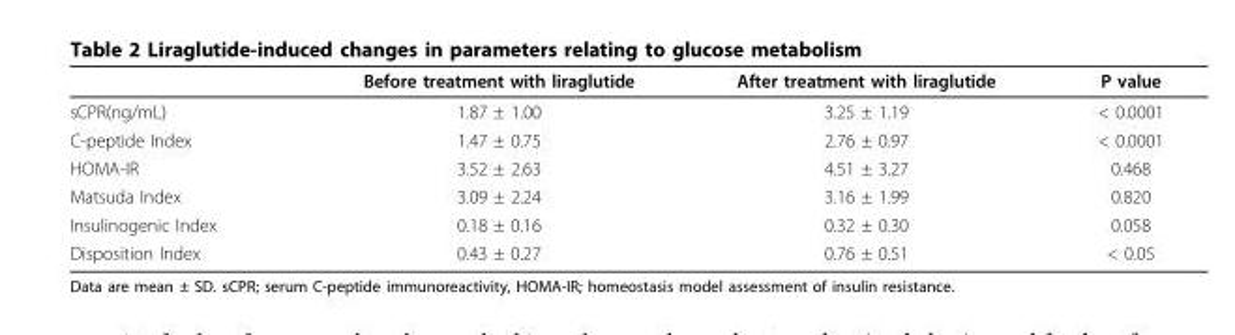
<table><thead><tr><td></td><td>Before treatment with liraglutide</td><td>After treatment with liraglutide</td><td>P value</td></tr></thead><tbody><tr><td>sCPR(ng/mL)</td><td>1.87 ± 1.00</td><td>3.25 ± 1.19</td><td>&lt; 0.0001</td></tr><tr><td>C-peptide Index</td><td>1.47 ± 0.75</td><td>2.76 ± 0.97</td><td>&lt; 0.0001</td></tr><tr><td>HOMA-IR</td><td>3.52 ± 2.63</td><td>4.51 ± 3.27</td><td>0.468</td></tr><tr><td>Matsuda Index</td><td>3.09 ± 2.24</td><td>3.16 ± 1.99</td><td>0.820</td></tr><tr><td>Insulinogenic Index</td><td>0.18 ± 0.16</td><td>0.32 ± 0.30</td><td>0.058</td></tr><tr><td>Disposition Index</td><td>0.43 ± 0.27</td><td>0.76 ± 0.51</td><td>&lt; 0.05</td></tr></tbody></table>